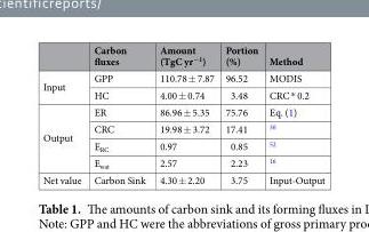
<table><thead><tr><td></td><td>Carbon fluxes</td><td>Amount (TgC yr<sup>−1</sup>)</td><td>Portion (%)</td><td>Method</td></tr></thead><tbody><tr><td rowspan="2">Input</td><td>GPP</td><td>110.78 ± 7.87</td><td>96.52</td><td>MODIS</td></tr><tr><td>HC</td><td>4.00 ± 0.74</td><td>3.48</td><td>CRC * 0.2</td></tr><tr><td rowspan="4">Output</td><td>ER</td><td>86.96 ± 5.35</td><td>75.76</td><td>Eq. (1)</td></tr><tr><td>CRC</td><td>19.98 ± 3.72</td><td>17.41</td><td><sup>30</sup></td></tr><tr><td>E<sub>RC</sub></td><td>0.97</td><td>0.85</td><td><sup>52</sup></td></tr><tr><td>E<sub>wat</sub></td><td>2.57</td><td>2.23</td><td><sup>16</sup></td></tr><tr><td>Net value</td><td>Carbon Sink</td><td>4.30 ± 2.20</td><td>3.75</td><td>Input-Output</td></tr></tbody></table>